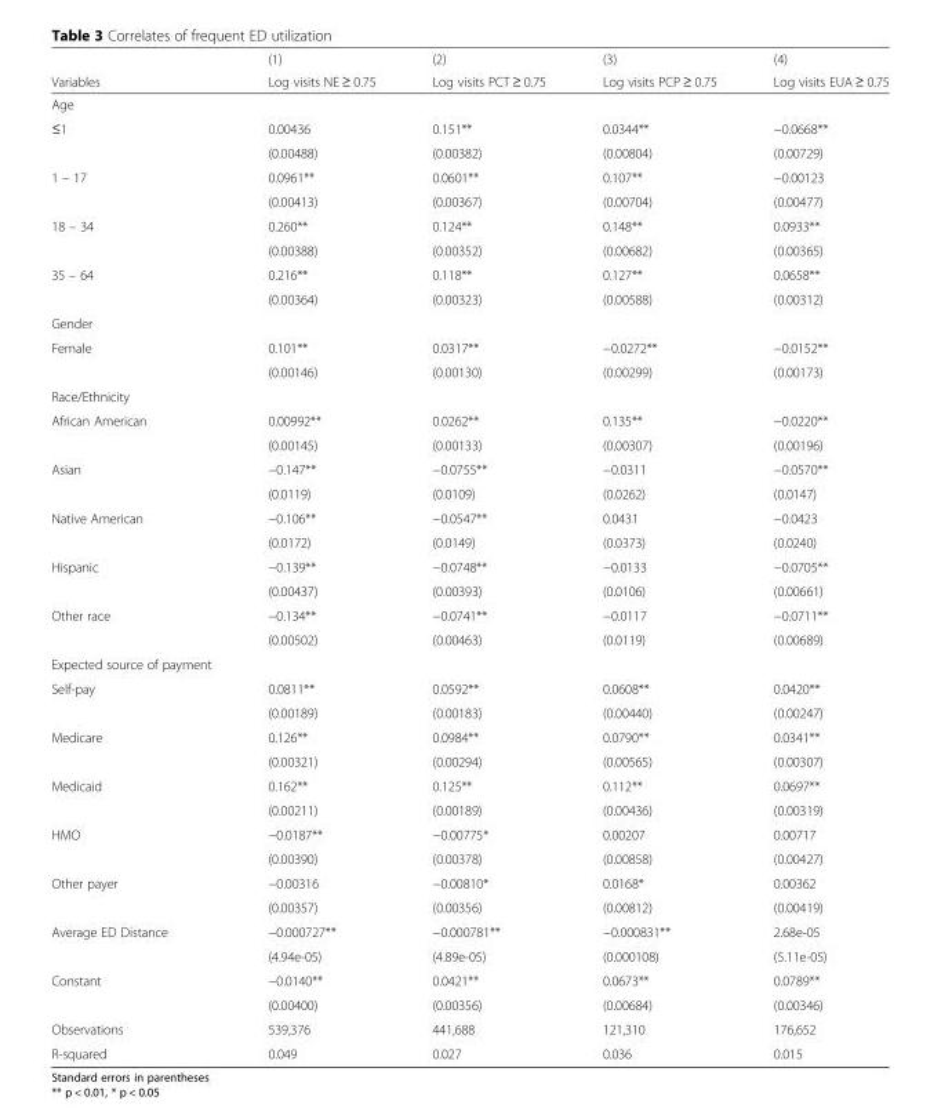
<table><thead><tr><td rowspan="2">Variables</td><td rowspan="2">(1) Log visits NE ≥ 0.75</td><td rowspan="2">(2) Log visits PCT ≥ 0.75</td><td rowspan="2">(3) Log visits PCP ≥ 0.75</td><td rowspan="2">(4) Log visits EUA ≥ 0.75</td></tr><tr></tr></thead><tbody><tr><td colspan="5">Age</td></tr><tr><td rowspan="2">≤1</td><td>0.00436</td><td>0.151**</td><td>0.0344**</td><td>−0.0668**</td></tr><tr><td>(0.00488)</td><td>(0.00382)</td><td>(0.00804)</td><td>(0.00729)</td></tr><tr><td rowspan="2">1 – 17</td><td>0.0961**</td><td>0.0601**</td><td>0.107**</td><td>−0.00123</td></tr><tr><td>(0.00413)</td><td>(0.00367)</td><td>(0.00704)</td><td>(0.00477)</td></tr><tr><td rowspan="2">18 – 34</td><td>0.260**</td><td>0.124**</td><td>0.148**</td><td>0.0933**</td></tr><tr><td>(0.00388)</td><td>(0.00352)</td><td>(0.00682)</td><td>(0.00365)</td></tr><tr><td rowspan="2">35 – 64</td><td>0.216**</td><td>0.118**</td><td>0.127**</td><td>0.0658**</td></tr><tr><td>(0.00364)</td><td>(0.00323)</td><td>(0.00588)</td><td>(0.00312)</td></tr><tr><td colspan="5">Gender</td></tr><tr><td rowspan="2">Female</td><td>0.101**</td><td>0.0317**</td><td>−0.0272**</td><td>−0.0152**</td></tr><tr><td>(0.00146)</td><td>(0.00130)</td><td>(0.00299)</td><td>(0.00173)</td></tr><tr><td colspan="5">Race/Ethnicity</td></tr><tr><td rowspan="2">African American</td><td>0.00992**</td><td>0.0262**</td><td>0.135**</td><td>−0.0220**</td></tr><tr><td>(0.00145)</td><td>(0.00133)</td><td>(0.00307)</td><td>(0.00196)</td></tr><tr><td rowspan="2">Asian</td><td>−0.147**</td><td>−0.0755**</td><td>−0.0311</td><td>−0.0570**</td></tr><tr><td>(0.0119)</td><td>(0.0109)</td><td>(0.0262)</td><td>(0.0147)</td></tr><tr><td rowspan="2">Native American</td><td>−0.106**</td><td>−0.0547**</td><td>0.0431</td><td>−0.0423</td></tr><tr><td>(0.0172)</td><td>(0.0149)</td><td>(0.0373)</td><td>(0.0240)</td></tr><tr><td rowspan="2">Hispanic</td><td>−0.139**</td><td>−0.0748**</td><td>−0.0133</td><td>−0.0705**</td></tr><tr><td>(0.00437)</td><td>(0.00393)</td><td>(0.0106)</td><td>(0.00661)</td></tr><tr><td rowspan="2">Other race</td><td>−0.134**</td><td>−0.0741**</td><td>−0.0117</td><td>−0.0711**</td></tr><tr><td>(0.00502)</td><td>(0.00463)</td><td>(0.0119)</td><td>(0.00689)</td></tr><tr><td colspan="5">Expected source of payment</td></tr><tr><td rowspan="2">Self-pay</td><td>0.0811**</td><td>0.0592**</td><td>0.0608**</td><td>0.0420**</td></tr><tr><td>(0.00189)</td><td>(0.00183)</td><td>(0.00440)</td><td>(0.00247)</td></tr><tr><td rowspan="2">Medicare</td><td>0.126**</td><td>0.0984**</td><td>0.0790**</td><td>0.0341**</td></tr><tr><td>(0.00321)</td><td>(0.00294)</td><td>(0.00565)</td><td>(0.00307)</td></tr><tr><td rowspan="2">Medicaid</td><td>0.162**</td><td>0.125**</td><td>0.112**</td><td>0.0697**</td></tr><tr><td>(0.00211)</td><td>(0.00189)</td><td>(0.00436)</td><td>(0.00319)</td></tr><tr><td rowspan="2">HMO</td><td>−0.0187**</td><td>−0.00775*</td><td>0.00207</td><td>0.00717</td></tr><tr><td>(0.00390)</td><td>(0.00378)</td><td>(0.00858)</td><td>(0.00427)</td></tr><tr><td rowspan="2">Other payer</td><td>−0.00316</td><td>−0.00810*</td><td>0.0168*</td><td>0.00362</td></tr><tr><td>(0.00357)</td><td>(0.00356)</td><td>(0.00812)</td><td>(0.00419)</td></tr><tr><td rowspan="2">Average ED Distance</td><td>−0.000727**</td><td>−0.000781**</td><td>−0.000831**</td><td>2.68e-05</td></tr><tr><td>(4.94e-05)</td><td>(4.89e-05)</td><td>(0.000108)</td><td>(5.11e-05)</td></tr><tr><td rowspan="2">Constant</td><td>−0.0140**</td><td>0.0421**</td><td>0.0673**</td><td>0.0789**</td></tr><tr><td>(0.00400)</td><td>(0.00356)</td><td>(0.00684)</td><td>(0.00346)</td></tr><tr><td>Observations</td><td>539,376</td><td>441,688</td><td>121,310</td><td>176,652</td></tr><tr><td>R-squared</td><td>0.049</td><td>0.027</td><td>0.036</td><td>0.015</td></tr></tbody></table>